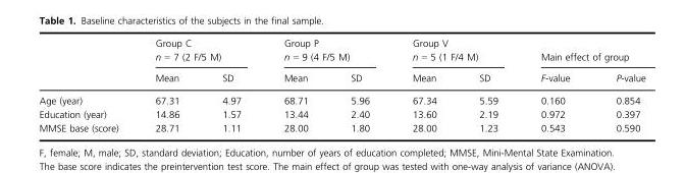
<table><thead><tr><td rowspan="2"></td><td colspan="2">Group C n = 7 (2 F/5 M)</td><td colspan="2">Group P n = 9 (4 F/5 M)</td><td colspan="2">Group V n = 5 (1 F/4 M)</td><td colspan="2">Main effect of group</td></tr><tr><td>Mean</td><td>SD</td><td>Mean</td><td>SD</td><td>Mean</td><td>SD</td><td>F-value</td><td>P-value</td></tr></thead><tbody><tr><td>Age (year)</td><td>67.31</td><td>4.97</td><td>68.71</td><td>5.96</td><td>67.34</td><td>5.59</td><td>0.160</td><td>0.854</td></tr><tr><td>Education (year)</td><td>14.86</td><td>1.57</td><td>13.44</td><td>2.40</td><td>13.60</td><td>2.19</td><td>0.972</td><td>0.397</td></tr><tr><td>MMSE base (score)</td><td>28.71</td><td>1.11</td><td>28.00</td><td>1.80</td><td>28.00</td><td>1.23</td><td>0.543</td><td>0.590</td></tr></tbody></table>